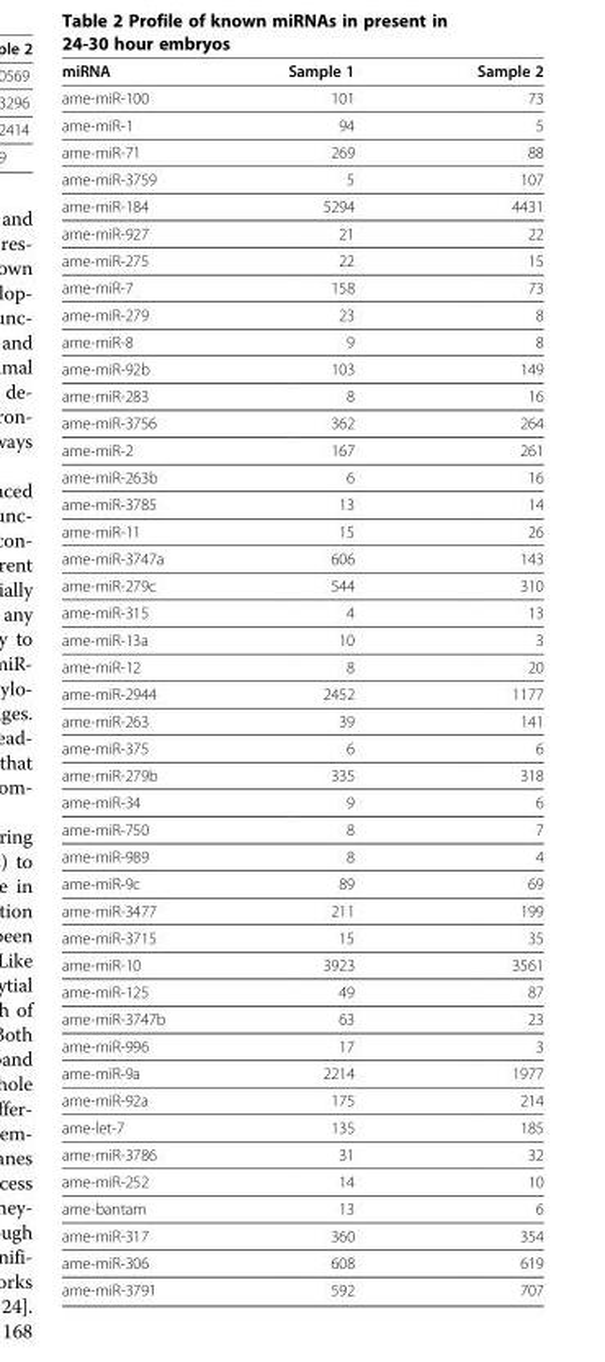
<table><thead><tr><td>miRNA</td><td>Sample 1</td><td>Sample 2</td></tr></thead><tbody><tr><td>ame-miR-100</td><td>101</td><td>73</td></tr><tr><td>ame-miR-1</td><td>94</td><td>5</td></tr><tr><td>ame-miR-71</td><td>269</td><td>88</td></tr><tr><td>ame-miR-3759</td><td>5</td><td>107</td></tr><tr><td>ame-miR-184</td><td>5294</td><td>4431</td></tr><tr><td>ame-miR-927</td><td>21</td><td>22</td></tr><tr><td>ame-miR-275</td><td>22</td><td>15</td></tr><tr><td>ame-miR-7</td><td>158</td><td>73</td></tr><tr><td>ame-miR-279</td><td>23</td><td>8</td></tr><tr><td>ame-miR-8</td><td>9</td><td>8</td></tr><tr><td>ame-miR-92b</td><td>103</td><td>149</td></tr><tr><td>ame-miR-283</td><td>8</td><td>16</td></tr><tr><td>ame-miR-3756</td><td>362</td><td>264</td></tr><tr><td>ame-miR-2</td><td>167</td><td>261</td></tr><tr><td>ame-miR-263b</td><td>6</td><td>16</td></tr><tr><td>ame-miR-3785</td><td>13</td><td>14</td></tr><tr><td>ame-miR-11</td><td>15</td><td>26</td></tr><tr><td>ame-miR-3747a</td><td>606</td><td>143</td></tr><tr><td>ame-miR-279c</td><td>544</td><td>310</td></tr><tr><td>ame-miR-315</td><td>4</td><td>13</td></tr><tr><td>ame-miR-13a</td><td>10</td><td>3</td></tr><tr><td>ame-miR-12</td><td>8</td><td>20</td></tr><tr><td>ame-miR-2944</td><td>2452</td><td>1177</td></tr><tr><td>ame-miR-263</td><td>39</td><td>141</td></tr><tr><td>ame-miR-375</td><td>6</td><td>6</td></tr><tr><td>ame-miR-279b</td><td>335</td><td>318</td></tr><tr><td>ame-miR-34</td><td>9</td><td>6</td></tr><tr><td>ame-miR-750</td><td>8</td><td>7</td></tr><tr><td>ame-miR-989</td><td>8</td><td>4</td></tr><tr><td>ame-miR-9c</td><td>89</td><td>69</td></tr><tr><td>ame-miR-3477</td><td>211</td><td>199</td></tr><tr><td>ame-miR-3715</td><td>15</td><td>35</td></tr><tr><td>ame-miR-10</td><td>3923</td><td>3561</td></tr><tr><td>ame-miR-125</td><td>49</td><td>87</td></tr><tr><td>ame-miR-3747b</td><td>63</td><td>23</td></tr><tr><td>ame-miR-996</td><td>17</td><td>3</td></tr><tr><td>ame-miR-9a</td><td>2214</td><td>1977</td></tr><tr><td>ame-miR-92a</td><td>175</td><td>214</td></tr><tr><td>ame-let-7</td><td>135</td><td>185</td></tr><tr><td>ame-miR-3786</td><td>31</td><td>32</td></tr><tr><td>ame-miR-252</td><td>14</td><td>10</td></tr><tr><td>ame-bantam</td><td>13</td><td>6</td></tr><tr><td>ame-miR-317</td><td>360</td><td>354</td></tr><tr><td>ame-miR-306</td><td>608</td><td>619</td></tr><tr><td>ame-miR-3791</td><td>592</td><td>707</td></tr></tbody></table>